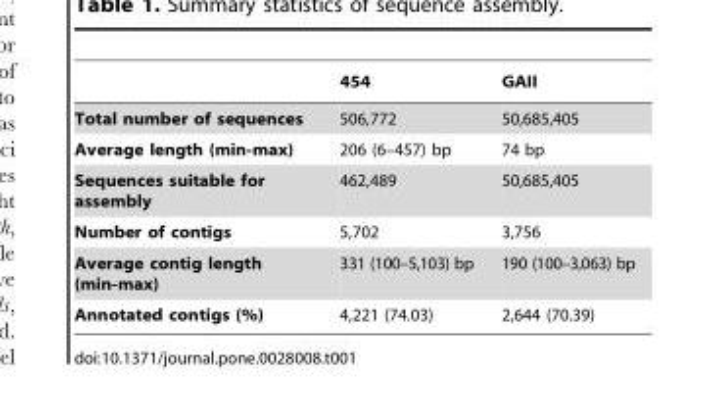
<table><thead><tr><td></td><td>454</td><td>GAII</td></tr></thead><tbody><tr><td>Total number of sequences</td><td>506,772</td><td>50,685,405</td></tr><tr><td>Average length (min-max)</td><td>206 (6–457) bp</td><td>74 bp</td></tr><tr><td>Sequences suitable for assembly</td><td>462,489</td><td>50,685,405</td></tr><tr><td>Number of contigs</td><td>5,702</td><td>3,756</td></tr><tr><td>Average contig length (min-max)</td><td>331 (100–5,103) bp</td><td>190 (100–3,063) bp</td></tr><tr><td>Annotated contigs (%)</td><td>4,221 (74.03)</td><td>2,644 (70.39)</td></tr></tbody></table>